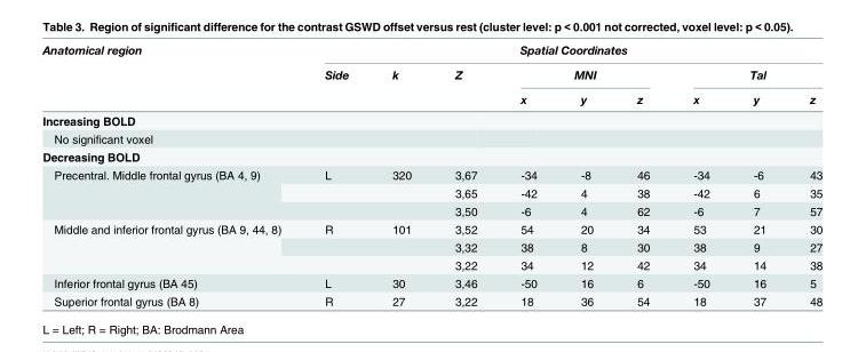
<table><thead><tr><td rowspan="3">Anatomical region</td><td colspan="9">Spatial Coordinates</td></tr><tr><td rowspan="2">Side</td><td rowspan="2">k</td><td rowspan="2">Z</td><td colspan="3">MNI</td><td colspan="3">Tal</td></tr><tr><td>x</td><td>y</td><td>z</td><td>x</td><td>y</td><td>z</td></tr></thead><tbody><tr><td colspan="10">Increasing BOLD</td></tr><tr><td colspan="10">No significant voxel</td></tr><tr><td colspan="10">Decreasing BOLD</td></tr><tr><td rowspan="3">Precentral. Middle frontal gyrus (BA 4, 9)</td><td>L</td><td>320</td><td>3,67</td><td>-34</td><td>-8</td><td>46</td><td>-34</td><td>-6</td><td>43</td></tr><tr><td></td><td></td><td>3,65</td><td>-42</td><td>4</td><td>38</td><td>-42</td><td>6</td><td>35</td></tr><tr><td></td><td></td><td>3,50</td><td>-6</td><td>4</td><td>62</td><td>-6</td><td>7</td><td>57</td></tr><tr><td rowspan="3">Middle and inferior frontal gyrus (BA 9, 44, 8)</td><td>R</td><td>101</td><td>3,52</td><td>54</td><td>20</td><td>34</td><td>53</td><td>21</td><td>30</td></tr><tr><td></td><td></td><td>3,32</td><td>38</td><td>8</td><td>30</td><td>38</td><td>9</td><td>27</td></tr><tr><td></td><td></td><td>3,22</td><td>34</td><td>12</td><td>42</td><td>34</td><td>14</td><td>38</td></tr><tr><td>Inferior frontal gyrus (BA 45)</td><td>L</td><td>30</td><td>3,46</td><td>-50</td><td>16</td><td>6</td><td>-50</td><td>16</td><td>5</td></tr><tr><td>Superior frontal gyrus (BA 8)</td><td>R</td><td>27</td><td>3,22</td><td>18</td><td>36</td><td>54</td><td>18</td><td>37</td><td>48</td></tr></tbody></table>